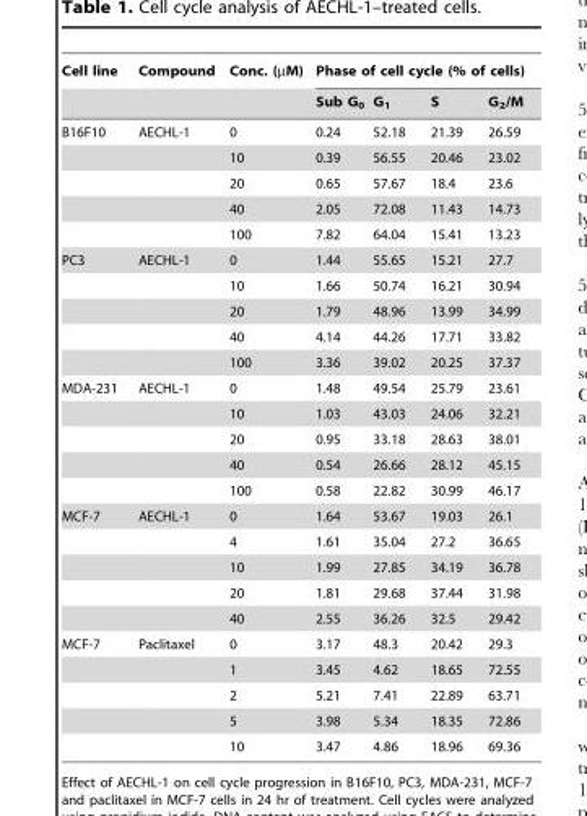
<table><thead><tr><td rowspan="2">Cell line</td><td rowspan="2">Compound</td><td rowspan="2">Conc. (µM)</td><td colspan="4">Phase of cell cycle (% of cells)</td></tr><tr><td>Sub G0</td><td>G1</td><td>S</td><td>G2/M</td></tr></thead><tbody><tr><td rowspan="5">B16F10</td><td>AECHL-1</td><td>0</td><td>0.24</td><td>52.18</td><td>21.39</td><td>26.59</td></tr><tr><td></td><td>10</td><td>0.39</td><td>56.55</td><td>20.46</td><td>23.02</td></tr><tr><td></td><td>20</td><td>0.65</td><td>57.67</td><td>18.4</td><td>23.6</td></tr><tr><td></td><td>40</td><td>2.05</td><td>72.08</td><td>11.43</td><td>14.73</td></tr><tr><td></td><td>100</td><td>7.82</td><td>64.04</td><td>15.41</td><td>13.23</td></tr><tr><td rowspan="5">PC3</td><td>AECHL-1</td><td>0</td><td>1.44</td><td>55.65</td><td>15.21</td><td>27.7</td></tr><tr><td></td><td>10</td><td>1.66</td><td>50.74</td><td>16.21</td><td>30.94</td></tr><tr><td></td><td>20</td><td>1.79</td><td>48.96</td><td>13.99</td><td>34.99</td></tr><tr><td></td><td>40</td><td>4.14</td><td>44.26</td><td>17.71</td><td>33.82</td></tr><tr><td></td><td>100</td><td>3.36</td><td>39.02</td><td>20.25</td><td>37.37</td></tr><tr><td rowspan="5">MDA-231</td><td>AECHL-1</td><td>0</td><td>1.48</td><td>49.54</td><td>25.79</td><td>23.61</td></tr><tr><td></td><td>10</td><td>1.03</td><td>43.03</td><td>24.06</td><td>32.21</td></tr><tr><td></td><td>20</td><td>0.95</td><td>33.18</td><td>28.63</td><td>38.01</td></tr><tr><td></td><td>40</td><td>0.54</td><td>26.66</td><td>28.12</td><td>45.15</td></tr><tr><td></td><td>100</td><td>0.58</td><td>22.82</td><td>30.99</td><td>46.17</td></tr><tr><td rowspan="5">MCF-7</td><td>AECHL-1</td><td>0</td><td>1.64</td><td>53.67</td><td>19.03</td><td>26.1</td></tr><tr><td></td><td>4</td><td>1.61</td><td>35.04</td><td>27.2</td><td>36.65</td></tr><tr><td></td><td>10</td><td>1.99</td><td>27.85</td><td>34.19</td><td>36.78</td></tr><tr><td></td><td>20</td><td>1.81</td><td>29.68</td><td>37.44</td><td>31.98</td></tr><tr><td></td><td>40</td><td>2.55</td><td>36.26</td><td>32.5</td><td>29.42</td></tr><tr><td rowspan="5">MCF-7</td><td>Paclitaxel</td><td>0</td><td>3.17</td><td>48.3</td><td>20.42</td><td>29.3</td></tr><tr><td></td><td>1</td><td>3.45</td><td>4.62</td><td>18.65</td><td>72.55</td></tr><tr><td></td><td>2</td><td>5.21</td><td>7.41</td><td>22.89</td><td>63.71</td></tr><tr><td></td><td>5</td><td>3.98</td><td>5.34</td><td>18.35</td><td>72.86</td></tr><tr><td></td><td>10</td><td>3.47</td><td>4.86</td><td>18.96</td><td>69.36</td></tr></tbody></table>